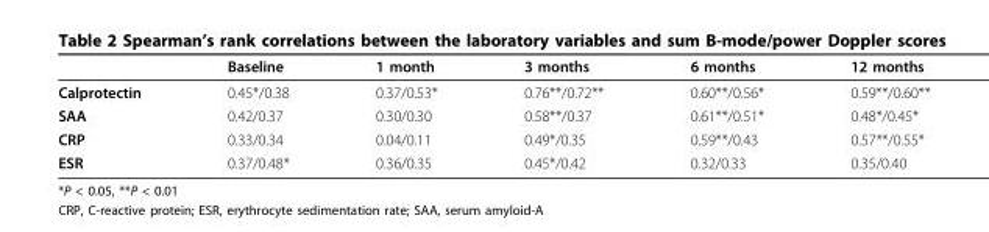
<table><thead><tr><td></td><td>Baseline</td><td>1 month</td><td>3 months</td><td>6 months</td><td>12 months</td></tr></thead><tbody><tr><td>Calprotectin</td><td>0.45*/0.38</td><td>0.37/0.53*</td><td>0.76**/0.72**</td><td>0.60**/0.56*</td><td>0.59**/0.60**</td></tr><tr><td>SAA</td><td>0.42/0.37</td><td>0.30/0.30</td><td>0.58**/0.37</td><td>0.61**/0.51*</td><td>0.48*/0.45*</td></tr><tr><td>CRP</td><td>0.33/0.34</td><td>0.04/0.11</td><td>0.49*/0.35</td><td>0.59**/0.43</td><td>0.57**/0.55*</td></tr><tr><td>ESR</td><td>0.37/0.48*</td><td>0.36/0.35</td><td>0.45*/0.42</td><td>0.32/0.33</td><td>0.35/0.40</td></tr></tbody></table>